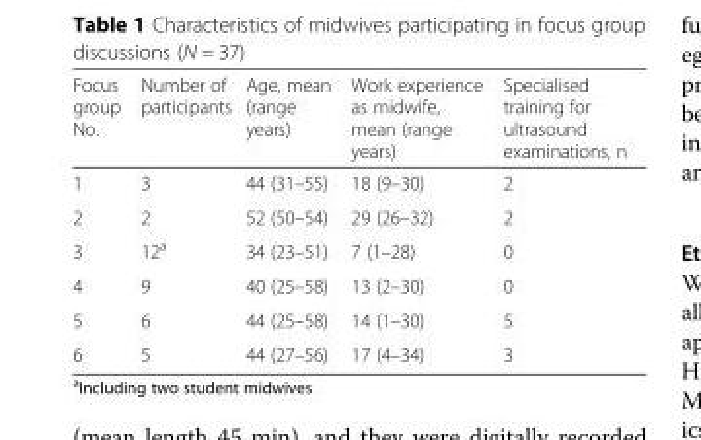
<table><thead><tr><td>Focus group No.</td><td>Number of participants</td><td>Age, mean (range years)</td><td>Work experience as midwife, mean (range years)</td><td>Specialised training for ultrasound examinations, n</td></tr></thead><tbody><tr><td>1</td><td>3</td><td>44 (31–55)</td><td>18 (9–30)</td><td>2</td></tr><tr><td>2</td><td>2</td><td>52 (50–54)</td><td>29 (26–32)</td><td>2</td></tr><tr><td>3</td><td>12<sup>a</sup></td><td>34 (23–51)</td><td>7 (1–28)</td><td>0</td></tr><tr><td>4</td><td>9</td><td>40 (25–58)</td><td>13 (2–30)</td><td>0</td></tr><tr><td>5</td><td>6</td><td>44 (25–58)</td><td>14 (1–30)</td><td>5</td></tr><tr><td>6</td><td>5</td><td>44 (27–56)</td><td>17 (4–34)</td><td>3</td></tr></tbody></table>